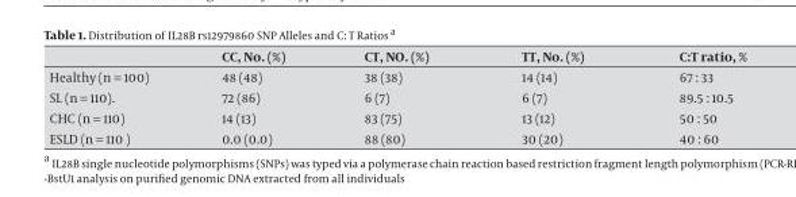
<table><thead><tr><td></td><td>CC, No. (%)</td><td>CT, NO. (%)</td><td>TT, No. (%)</td><td>C:T ratio, %</td></tr></thead><tbody><tr><td>Healthy (n = 100)</td><td>48 (48)</td><td>38 (38)</td><td>14 (14)</td><td>67 : 33</td></tr><tr><td>SL (n = 110).</td><td>72 (86)</td><td>6 (7)</td><td>6 (7)</td><td>89.5 : 10.5</td></tr><tr><td>CHC (n = 110)</td><td>14 (13)</td><td>83 (75)</td><td>13 (12)</td><td>50 : 50</td></tr><tr><td>ESLD (n = 110 )</td><td>0.0 (0.0)</td><td>88 (80)</td><td>30 (20)</td><td>40 : 60</td></tr></tbody></table>